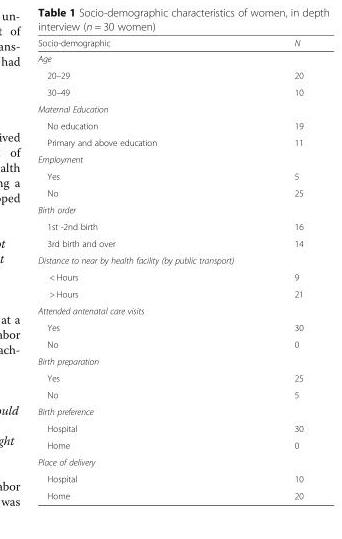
<table><thead><tr><td>Socio-demographic</td><td>N</td></tr></thead><tbody><tr><td colspan="2">Age</td></tr><tr><td>20–29</td><td>20</td></tr><tr><td>30–49</td><td>10</td></tr><tr><td colspan="2">Maternal Education</td></tr><tr><td>No education</td><td>19</td></tr><tr><td>Primary and above education</td><td>11</td></tr><tr><td colspan="2">Employment</td></tr><tr><td>Yes</td><td>5</td></tr><tr><td>No</td><td>25</td></tr><tr><td colspan="2">Birth order</td></tr><tr><td>1st -2nd birth</td><td>16</td></tr><tr><td>3rd birth and over</td><td>14</td></tr><tr><td colspan="2">Distance to near by health facility (by public transport)</td></tr><tr><td>&lt; Hours</td><td>9</td></tr><tr><td>&gt; Hours</td><td>21</td></tr><tr><td colspan="2">Attended antenatal care visits</td></tr><tr><td>Yes</td><td>30</td></tr><tr><td>No</td><td>0</td></tr><tr><td colspan="2">Birth preparation</td></tr><tr><td>Yes</td><td>25</td></tr><tr><td>No</td><td>5</td></tr><tr><td colspan="2">Birth preference</td></tr><tr><td>Hospital</td><td>30</td></tr><tr><td>Home</td><td>0</td></tr><tr><td colspan="2">Place of delivery</td></tr><tr><td>Hospital</td><td>10</td></tr><tr><td>Home</td><td>20</td></tr></tbody></table>